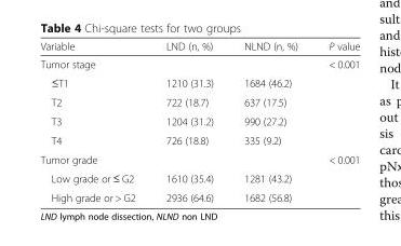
<table><thead><tr><td>Variable</td><td>LND (n, %)</td><td>NLND (n, %)</td><td>P value</td></tr></thead><tbody><tr><td>Tumor stage</td><td></td><td></td><td>&lt; 0.001</td></tr><tr><td>≤T1</td><td>1210 (31.3)</td><td>1684 (46.2)</td><td></td></tr><tr><td>T2</td><td>722 (18.7)</td><td>637 (17.5)</td><td></td></tr><tr><td>T3</td><td>1204 (31.2)</td><td>990 (27.2)</td><td></td></tr><tr><td>T4</td><td>726 (18.8)</td><td>335 (9.2)</td><td></td></tr><tr><td>Tumor grade</td><td></td><td></td><td>&lt; 0.001</td></tr><tr><td>Low grade or ≤ G2</td><td>1610 (35.4)</td><td>1281 (43.2)</td><td></td></tr><tr><td>High grade or &gt; G2</td><td>2936 (64.6)</td><td>1682 (56.8)</td><td></td></tr></tbody></table>